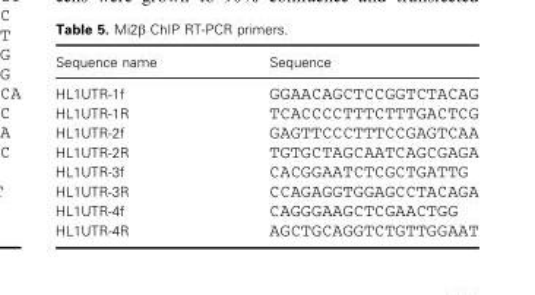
<table><thead><tr><td>Sequence name</td><td>Sequence</td></tr></thead><tbody><tr><td>HL1UTR-1f</td><td>GGAACAGCTCCGGTCTACAG</td></tr><tr><td>HL1UTR-1R</td><td>TCACCCCTTTCTTTGACTCG</td></tr><tr><td>HL1UTR-2f</td><td>GAGTTCCCTTTCCGAGTCAA</td></tr><tr><td>HL1UTR-2R</td><td>TGTGCTAGCAATCAGCGAGA</td></tr><tr><td>HL1UTR-3f</td><td>CACGGAATCTCGCTGATTG</td></tr><tr><td>HL1UTR-3R</td><td>CCAGAGGTGGAGCCTACAGA</td></tr><tr><td>HL1UTR-4f</td><td>CAGGGAAGCTCGAACTGG</td></tr><tr><td>HL1UTR-4R</td><td>AGCTGCAGGTCTGTTGGAAT</td></tr></tbody></table>